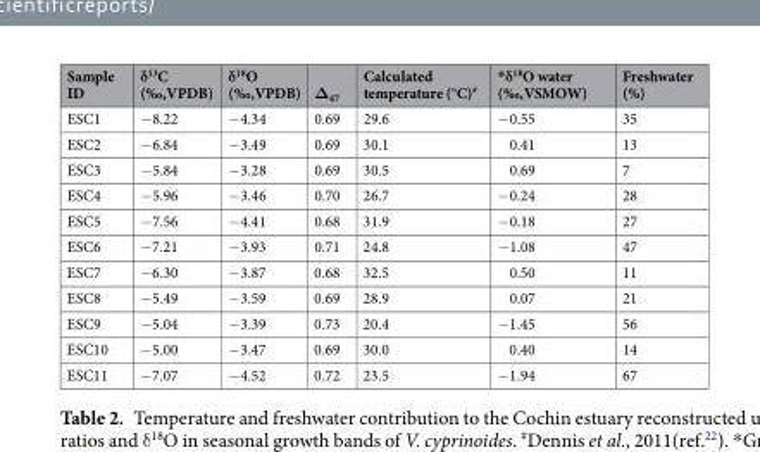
<table><thead><tr><td>Sample ID</td><td>δ<sup>13</sup>C (‰,VPDB)</td><td>δ<sup>18</sup>O (‰,VPDB)</td><td>Δ<sub>47</sub></td><td>Calculated temperature (°C)<sup>#</sup></td><td>*δ<sup>18</sup>O water (‰,VSMOW)</td><td>Freshwater (%)</td></tr></thead><tbody><tr><td>ESC1</td><td>−8.22</td><td>−4.34</td><td>0.69</td><td>29.6</td><td>−0.55</td><td>35</td></tr><tr><td>ESC2</td><td>−6.84</td><td>−3.49</td><td>0.69</td><td>30.1</td><td>0.41</td><td>13</td></tr><tr><td>ESC3</td><td>−5.84</td><td>−3.28</td><td>0.69</td><td>30.5</td><td>0.69</td><td>7</td></tr><tr><td>ESC4</td><td>−5.96</td><td>−3.46</td><td>0.70</td><td>26.7</td><td>−0.24</td><td>28</td></tr><tr><td>ESC5</td><td>−7.56</td><td>−4.41</td><td>0.68</td><td>31.9</td><td>−0.18</td><td>27</td></tr><tr><td>ESC6</td><td>−7.21</td><td>−3.93</td><td>0.71</td><td>24.8</td><td>−1.08</td><td>47</td></tr><tr><td>ESC7</td><td>−6.30</td><td>−3.87</td><td>0.68</td><td>32.5</td><td>0.50</td><td>11</td></tr><tr><td>ESC8</td><td>−5.49</td><td>−3.59</td><td>0.69</td><td>28.9</td><td>0.07</td><td>21</td></tr><tr><td>ESC9</td><td>−5.04</td><td>−3.39</td><td>0.73</td><td>20.4</td><td>−1.45</td><td>56</td></tr><tr><td>ESC10</td><td>−5.00</td><td>−3.47</td><td>0.69</td><td>30.0</td><td>0.40</td><td>14</td></tr><tr><td>ESC11</td><td>−7.07</td><td>−4.52</td><td>0.72</td><td>23.5</td><td>−1.94</td><td>67</td></tr></tbody></table>